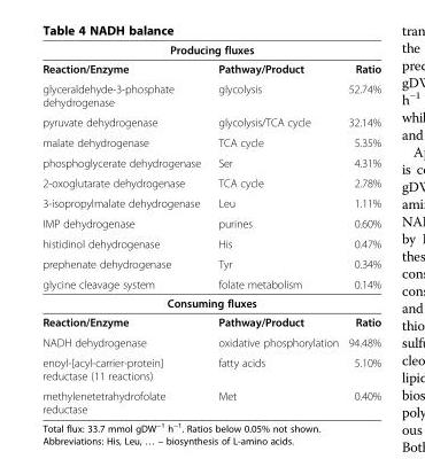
<table><tbody><tr><td colspan="3">Producing fluxes</td></tr><tr><td>Reaction/Enzyme</td><td>Pathway/Product</td><td>Ratio</td></tr><tr><td>glyceraldehyde-3-phosphate dehydrogenase</td><td>glycolysis</td><td>52.74%</td></tr><tr><td>pyruvate dehydrogenase</td><td>glycolysis/TCA cycle</td><td>32.14%</td></tr><tr><td>malate dehydrogenase</td><td>TCA cycle</td><td>5.35%</td></tr><tr><td>phosphoglycerate dehydrogenase</td><td>Ser</td><td>4.31%</td></tr><tr><td>2-oxoglutarate dehydrogenase</td><td>TCA cycle</td><td>2.78%</td></tr><tr><td>3-isopropylmalate dehydrogenase</td><td>Leu</td><td>1.11%</td></tr><tr><td>IMP dehydrogenase</td><td>purines</td><td>0.60%</td></tr><tr><td>histidinol dehydrogenase</td><td>His</td><td>0.47%</td></tr><tr><td>prephenate dehydrogenase</td><td>Tyr</td><td>0.34%</td></tr><tr><td>glycine cleavage system</td><td>folate metabolism</td><td>0.14%</td></tr><tr><td colspan="3">Consuming fluxes</td></tr><tr><td>Reaction/Enzyme</td><td>Pathway/Product</td><td>Ratio</td></tr><tr><td>NADH dehydrogenase</td><td>oxidative phosphorylation</td><td>94.48%</td></tr><tr><td>enoyl-[acyl-carrier-protein] reductase (11 reactions)</td><td>fatty acids</td><td>5.10%</td></tr><tr><td>methylenetetrahydrofolate reductase</td><td>Met</td><td>0.40%</td></tr></tbody></table>